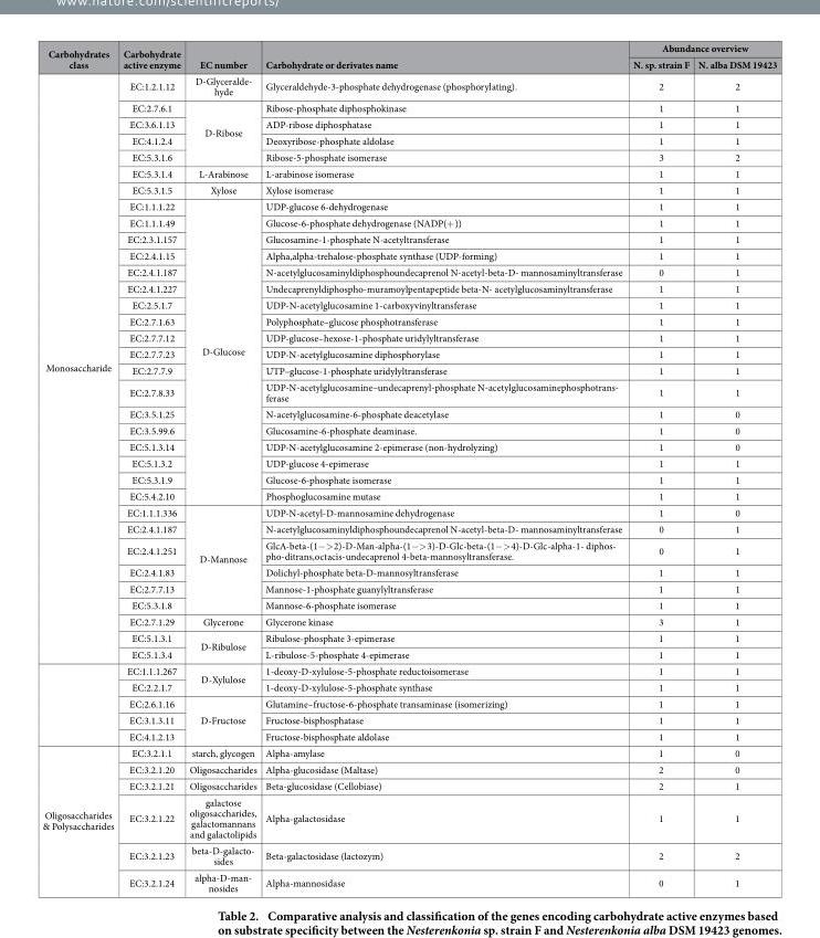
<table><thead><tr><td rowspan="2">Carbohydrates class</td><td rowspan="2">Carbohydrate active enzyme</td><td rowspan="2">EC number</td><td rowspan="2">Carbohydrate or derivates name</td><td colspan="2">Abundance overview</td></tr><tr><td>N. sp. strain F</td><td>N. alba DSM 19423</td></tr></thead><tbody><tr><td rowspan="39">Monosaccharide</td><td>EC:1.2.1.12</td><td>D-Glyceralde- hyde</td><td>Glyceraldehyde-3-phosphate dehydrogenase (phosphorylating).</td><td>2</td><td>2</td></tr><tr><td>EC:2.7.6.1</td><td rowspan="4">D-Ribose</td><td>Ribose-phosphate diphosphokinase</td><td>1</td><td>1</td></tr><tr><td>EC:3.6.1.13</td><td>ADP-ribose diphosphatase</td><td>1</td><td>1</td></tr><tr><td>EC:4.1.2.4</td><td>Deoxyribose-phosphate aldolase</td><td>1</td><td>1</td></tr><tr><td>EC:5.3.1.6</td><td>Ribose-5-phosphate isomerase</td><td>3</td><td>2</td></tr><tr><td>EC:5.3.1.4</td><td>L-Arabinose</td><td>L-arabinose isomerase</td><td>1</td><td>1</td></tr><tr><td>EC:5.3.1.5</td><td>Xylose</td><td>Xylose isomerase</td><td>1</td><td>1</td></tr><tr><td>EC:1.1.1.22</td><td rowspan="18">D-Glucose</td><td>UDP-glucose 6-dehydrogenase</td><td>1</td><td>1</td></tr><tr><td>EC:1.1.1.49</td><td>Glucose-6-phosphate dehydrogenase (NADP(+ ))</td><td>1</td><td>1</td></tr><tr><td>EC:2.3.1.157</td><td>Glucosamine-1-phosphate N-acetyltransferase</td><td>1</td><td>1</td></tr><tr><td>EC:2.4.1.15</td><td>Alpha,alpha-trehalose-phosphate synthase (UDP-forming)</td><td>1</td><td>1</td></tr><tr><td>EC:2.4.1.187</td><td>N-acetylglucosaminyldiphosphoundecaprenol N-acetyl-beta-D- mannosaminyltransferase</td><td>0</td><td>1</td></tr><tr><td>EC:2.4.1.227</td><td>Undecaprenyldiphospho-muramoylpentapeptide beta-N- acetylglucosaminyltransferase</td><td>1</td><td>1</td></tr><tr><td>EC:2.5.1.7</td><td>UDP-N-acetylglucosamine 1-carboxyvinyltransferase</td><td>1</td><td>1</td></tr><tr><td>EC:2.7.1.63</td><td>Polyphosphate–glucose phosphotransferase</td><td>1</td><td>1</td></tr><tr><td>EC:2.7.7.12</td><td>UDP-glucose–hexose-1-phosphate uridylyltransferase</td><td>1</td><td>1</td></tr><tr><td>EC:2.7.7.23</td><td>UDP-N-acetylglucosamine diphosphorylase</td><td>1</td><td>1</td></tr><tr><td>EC:2.7.7.9</td><td>UTP–glucose-1-phosphate uridylyltransferase</td><td>1</td><td>1</td></tr><tr><td>EC:2.7.8.33</td><td>UDP-N-acetylglucosamine–undecaprenyl-phosphate N-acetylglucosaminephosphotrans- ferase</td><td>1</td><td>1</td></tr><tr><td>EC:3.5.1.25</td><td>N-acetylglucosamine-6-phosphate deacetylase</td><td>1</td><td>0</td></tr><tr><td>EC:3.5.99.6</td><td>Glucosamine-6-phosphate deaminase.</td><td>1</td><td>0</td></tr><tr><td>EC:5.1.3.14</td><td>UDP-N-acetylglucosamine 2-epimerase (non-hydrolyzing)</td><td>1</td><td>0</td></tr><tr><td>EC:5.1.3.2</td><td>UDP-glucose 4-epimerase</td><td>1</td><td>1</td></tr><tr><td>EC:5.3.1.9</td><td>Glucose-6-phosphate isomerase</td><td>1</td><td>1</td></tr><tr><td>EC:5.4.2.10</td><td>Phosphoglucosamine mutase</td><td>1</td><td>1</td></tr><tr><td>EC:1.1.1.336</td><td rowspan="6">D-Mannose</td><td>UDP-N-acetyl-D-mannosamine dehydrogenase</td><td>1</td><td>0</td></tr><tr><td>EC:2.4.1.187</td><td>N-acetylglucosaminyldiphosphoundecaprenol N-acetyl-beta-D- mannosaminyltransferase</td><td>0</td><td>1</td></tr><tr><td>EC:2.4.1.251</td><td>GlcA-beta-(1−&gt; 2)-D-Man-alpha-(1−&gt; 3)-D-Glc-beta-(1−&gt; 4)-D-Glc-alpha-1- diphos- pho-ditrans,octacis-undecaprenol 4-beta-mannosyltransferase.</td><td>0</td><td>1</td></tr><tr><td>EC:2.4.1.83</td><td>Dolichyl-phosphate beta-D-mannosyltransferase</td><td>1</td><td>1</td></tr><tr><td>EC:2.7.7.13</td><td>Mannose-1-phosphate guanylyltransferase</td><td>1</td><td>1</td></tr><tr><td>EC:5.3.1.8</td><td>Mannose-6-phosphate isomerase</td><td>1</td><td>1</td></tr><tr><td>EC:2.7.1.29</td><td>Glycerone</td><td>Glycerone kinase</td><td>3</td><td>1</td></tr><tr><td>EC:5.1.3.1</td><td rowspan="2">D-Ribulose</td><td>Ribulose-phosphate 3-epimerase</td><td>1</td><td>1</td></tr><tr><td>EC:5.1.3.4</td><td>L-ribulose-5-phosphate 4-epimerase</td><td>1</td><td>1</td></tr><tr><td>EC:1.1.1.267</td><td rowspan="2">D-Xylulose</td><td>1-deoxy-D-xylulose-5-phosphate reductoisomerase</td><td>1</td><td>1</td></tr><tr><td>EC:2.2.1.7</td><td>1-deoxy-D-xylulose-5-phosphate synthase</td><td>1</td><td>1</td></tr><tr><td>EC:2.6.1.16</td><td rowspan="3">D-Fructose</td><td>Glutamine–fructose-6-phosphate transaminase (isomerizing)</td><td>1</td><td>1</td></tr><tr><td>EC:3.1.3.11</td><td>Fructose-bisphosphatase</td><td>1</td><td>1</td></tr><tr><td>EC:4.1.2.13</td><td>Fructose-bisphosphate aldolase</td><td>1</td><td>1</td></tr><tr><td rowspan="6">Oligosaccharides &amp; Polysaccharides</td><td>EC:3.2.1.1</td><td>starch, glycogen</td><td>Alpha-amylase</td><td>1</td><td>0</td></tr><tr><td>EC:3.2.1.20</td><td>Oligosaccharides</td><td>Alpha-glucosidase (Maltase)</td><td>2</td><td>0</td></tr><tr><td>EC:3.2.1.21</td><td>Oligosaccharides</td><td>Beta-glucosidase (Cellobiase)</td><td>2</td><td>1</td></tr><tr><td>EC:3.2.1.22</td><td>galactose oligosaccharides, galactomannans and galactolipids</td><td>Alpha-galactosidase</td><td>1</td><td>1</td></tr><tr><td>EC:3.2.1.23</td><td>beta-D-galacto- sides</td><td>Beta-galactosidase (lactozym)</td><td>2</td><td>2</td></tr><tr><td>EC:3.2.1.24</td><td>alpha-D-man- nosides</td><td>Alpha-mannosidase</td><td>0</td><td>1</td></tr></tbody></table>